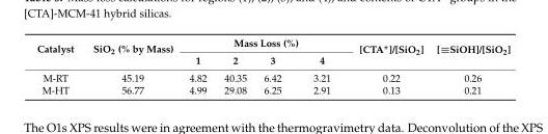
<table><thead><tr><td rowspan="2">Catalyst</td><td rowspan="2">SiO<sub>2</sub> (% by Mass)</td><td colspan="4">Mass Loss (%)</td><td rowspan="2">[CTA<sup>+</sup>]/[SiO<sub>2</sub>]</td><td rowspan="2">[≡SiOH]/[SiO<sub>2</sub>]</td></tr><tr><td>1</td><td>2</td><td>3</td><td>4</td></tr></thead><tbody><tr><td>M-RT</td><td>45.19</td><td>4.82</td><td>40.35</td><td>6.42</td><td>3.21</td><td>0.22</td><td>0.26</td></tr><tr><td>M-HT</td><td>56.77</td><td>4.99</td><td>29.08</td><td>6.25</td><td>2.91</td><td>0.13</td><td>0.21</td></tr></tbody></table>